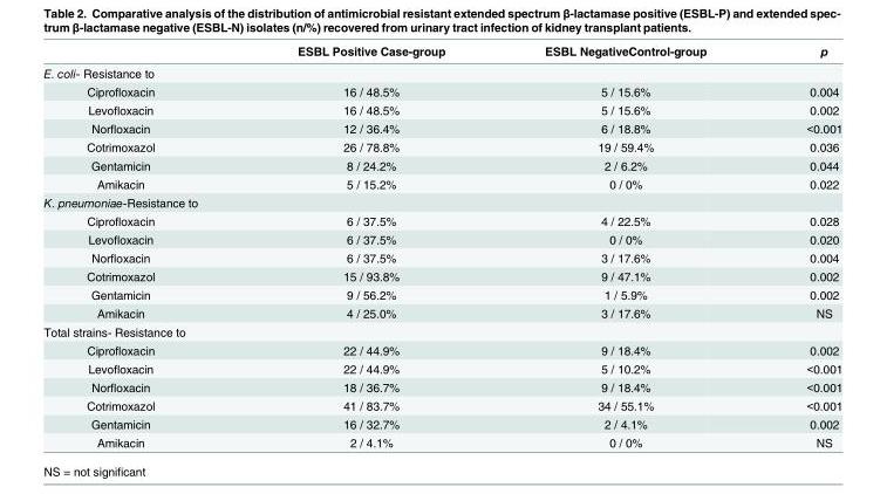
<table><thead><tr><td></td><td>ESBL Positive Case-group</td><td>ESBL NegativeControl-group</td><td>p</td></tr></thead><tbody><tr><td colspan="4">E. coli- Resistance to</td></tr><tr><td>Ciprofloxacin</td><td>16 / 48.5%</td><td>5 / 15.6%</td><td>0.004</td></tr><tr><td>Levofloxacin</td><td>16 / 48.5%</td><td>5 / 15.6%</td><td>0.002</td></tr><tr><td>Norfloxacin</td><td>12 / 36.4%</td><td>6 / 18.8%</td><td>&lt;0.001</td></tr><tr><td>Cotrimoxazol</td><td>26 / 78.8%</td><td>19 / 59.4%</td><td>0.036</td></tr><tr><td>Gentamicin</td><td>8 / 24.2%</td><td>2 / 6.2%</td><td>0.044</td></tr><tr><td>Amikacin</td><td>5 / 15.2%</td><td>0 / 0%</td><td>0.022</td></tr><tr><td colspan="4">K. pneumoniae-Resistance to</td></tr><tr><td>Ciprofloxacin</td><td>6 / 37.5%</td><td>4 / 22.5%</td><td>0.028</td></tr><tr><td>Levofloxacin</td><td>6 / 37.5%</td><td>0 / 0%</td><td>0.020</td></tr><tr><td>Norfloxacin</td><td>6 / 37.5%</td><td>3 / 17.6%</td><td>0.004</td></tr><tr><td>Cotrimoxazol</td><td>15 / 93.8%</td><td>9 / 47.1%</td><td>0.002</td></tr><tr><td>Gentamicin</td><td>9 / 56.2%</td><td>1 / 5.9%</td><td>0.002</td></tr><tr><td>Amikacin</td><td>4 / 25.0%</td><td>3 / 17.6%</td><td>NS</td></tr><tr><td colspan="4">Total strains- Resistance to</td></tr><tr><td>Ciprofloxacin</td><td>22 / 44.9%</td><td>9 / 18.4%</td><td>0.002</td></tr><tr><td>Levofloxacin</td><td>22 / 44.9%</td><td>5 / 10.2%</td><td>&lt;0.001</td></tr><tr><td>Norfloxacin</td><td>18 / 36.7%</td><td>9 / 18.4%</td><td>&lt;0.001</td></tr><tr><td>Cotrimoxazol</td><td>41 / 83.7%</td><td>34 / 55.1%</td><td>&lt;0.001</td></tr><tr><td>Gentamicin</td><td>16 / 32.7%</td><td>2 / 4.1%</td><td>0.002</td></tr><tr><td>Amikacin</td><td>2 / 4.1%</td><td>0 / 0%</td><td>NS</td></tr></tbody></table>